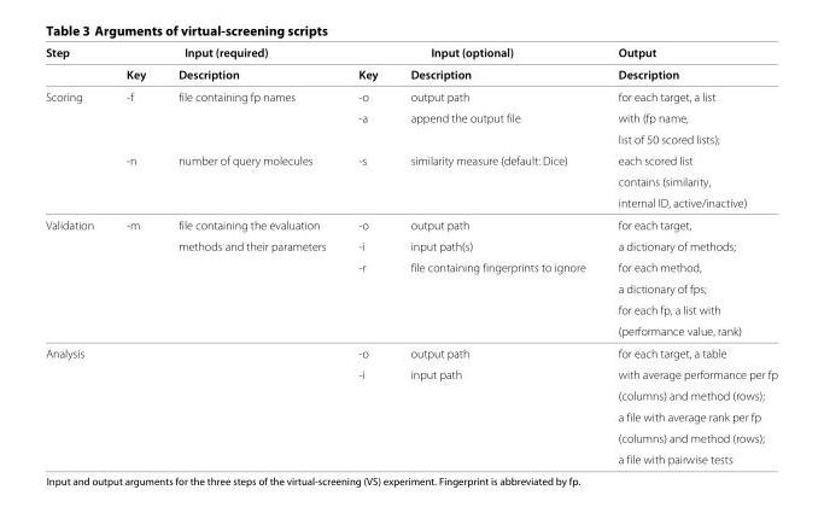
<table><thead><tr><td rowspan="2">Step</td><td colspan="2">Input (required)</td><td colspan="2">Input (optional)</td><td rowspan="2">Output Description</td></tr><tr><td>Key</td><td>Description</td><td>Key</td><td>Description</td></tr></thead><tbody><tr><td rowspan="6">Scoring</td><td>-f</td><td>file containing fp names</td><td>-o</td><td>output path</td><td>for each target, a list</td></tr><tr><td></td><td></td><td>-a</td><td>append the output file</td><td>with (fp name,</td></tr><tr><td></td><td></td><td></td><td></td><td>list of 50 scored lists);</td></tr><tr><td>-n</td><td>number of query molecules</td><td>-s</td><td>similarity measure (default: Dice)</td><td>each scored list</td></tr><tr><td></td><td></td><td></td><td></td><td>contains (similarity,</td></tr><tr><td></td><td></td><td></td><td></td><td>internal ID, active/inactive)</td></tr><tr><td rowspan="6">Validation</td><td>-m</td><td>file containing the evaluation</td><td>-o</td><td>output path</td><td>for each target,</td></tr><tr><td></td><td>methods and their parameters</td><td>-i</td><td>input path(s)</td><td>a dictionary of methods;</td></tr><tr><td></td><td></td><td>-r</td><td>file containing fingerprints to ignore</td><td>for each method,</td></tr><tr><td></td><td></td><td></td><td></td><td>a dictionary of fps;</td></tr><tr><td></td><td></td><td></td><td></td><td>for each fp, a list with</td></tr><tr><td></td><td></td><td></td><td></td><td>(performance value, rank)</td></tr><tr><td rowspan="6">Analysis</td><td></td><td></td><td>-o</td><td>output path</td><td>for each target, a table</td></tr><tr><td></td><td></td><td>-i</td><td>input path</td><td>with average performance per fp</td></tr><tr><td></td><td></td><td></td><td></td><td>(columns) and method (rows);</td></tr><tr><td></td><td></td><td></td><td></td><td>a file with average rank per fp</td></tr><tr><td></td><td></td><td></td><td></td><td>(columns) and method (rows);</td></tr><tr><td></td><td></td><td></td><td></td><td>a file with pairwise tests</td></tr></tbody></table>